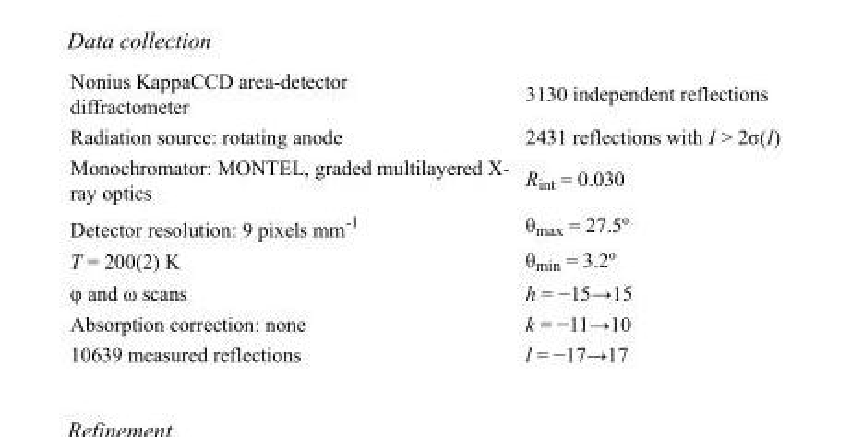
<table><tbody><tr><td>Nonius KappaCCD area-detector diffractometer</td><td>3130 independent reflections</td></tr><tr><td>Radiation source: rotating anode</td><td>2431 reflections with I &gt; 2σ(I)</td></tr><tr><td>Monochromator: MONTEL, graded multilayered X- ray optics</td><td>R<sub>int</sub> = 0.030</td></tr><tr><td>Detector resolution: 9 pixels mm<sup>-1</sup></td><td>θ<sub>max</sub> = 27.5º</td></tr><tr><td>T = 200(2) K</td><td>θ<sub>min</sub> = 3.2º</td></tr><tr><td>φ and ω scans</td><td>h = −15→15</td></tr><tr><td>Absorption correction: none</td><td>k = −11→10</td></tr><tr><td>10639 measured reflections</td><td>l = −17→17</td></tr></tbody></table>